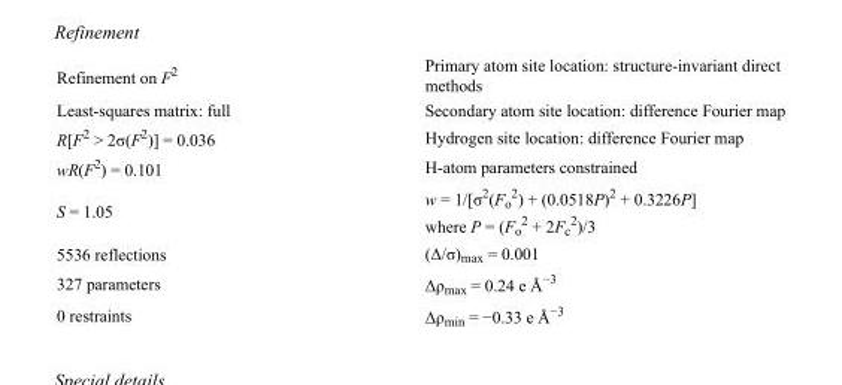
<table><tbody><tr><td>Refinement on F<sup>2</sup></td><td>Primary atom site location: structure-invariant direct methods</td></tr><tr><td>Least-squares matrix: full</td><td>Secondary atom site location: difference Fourier map</td></tr><tr><td>R[F<sup>2</sup> &gt; 2σ(F<sup>2</sup>)] = 0.036</td><td>Hydrogen site location: difference Fourier map</td></tr><tr><td>wR(F<sup>2</sup>) = 0.101</td><td>H-atom parameters constrained</td></tr><tr><td>S = 1.05</td><td>w = 1/[σ<sup>2</sup>(F<sub>o</sub> <sup>2</sup>) + (0.0518P)<sup>2</sup> + 0.3226P] where P = (F<sub>o</sub> <sup>2</sup> + 2F<sub>c</sub> <sup>2</sup>)/3</td></tr><tr><td>5536 reflections</td><td>(Δ/σ)<sub>max</sub> = 0.001</td></tr><tr><td>327 parameters</td><td>Δρ<sub>max</sub> = 0.24 e Å<sup>−3</sup></td></tr><tr><td>0 restraints</td><td>Δρ<sub>min</sub> = −0.33 e Å<sup>−3</sup></td></tr></tbody></table>